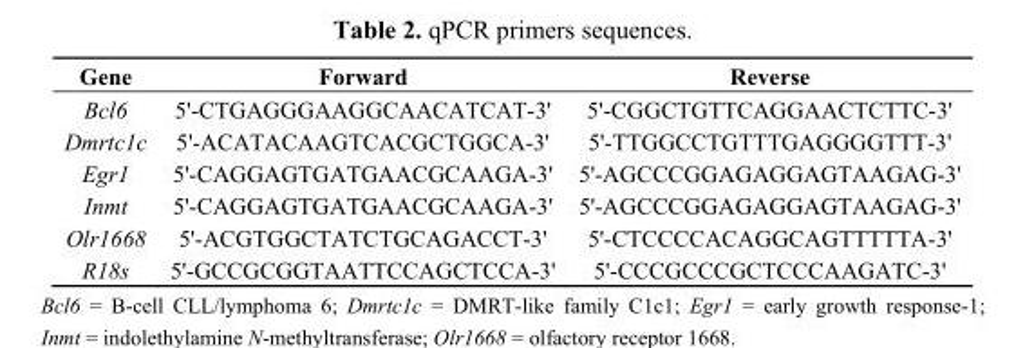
<table><thead><tr><td>Gene</td><td>Forward</td><td>Reverse</td></tr></thead><tbody><tr><td>Bcl6</td><td>5&#x27;-CTGAGGGAAGGCAACATCAT-3&#x27;</td><td>5&#x27;-CGGCTGTTCAGGAACTCTTC-3&#x27;</td></tr><tr><td>Dmrtc1c</td><td>5&#x27;-ACATACAAGTCACGCTGGCA-3&#x27;</td><td>5&#x27;-TTGGCCTGTTTGAGGGGTTT-3&#x27;</td></tr><tr><td>Egr1</td><td>5&#x27;-CAGGAGTGATGAACGCAAGA-3&#x27;</td><td>5&#x27;-AGCCCGGAGAGGAGTAAGAG-3&#x27;</td></tr><tr><td>Inmt</td><td>5&#x27;-CAGGAGTGATGAACGCAAGA-3&#x27;</td><td>5&#x27;-AGCCCGGAGAGGAGTAAGAG-3&#x27;</td></tr><tr><td>Olr1668</td><td>5&#x27;-ACGTGGCTATCTGCAGACCT-3&#x27;</td><td>5&#x27;-CTCCCCACAGGCAGTTTTTA-3&#x27;</td></tr><tr><td>R18s</td><td>5&#x27;-GCCGCGGTAATTCCAGCTCCA-3&#x27;</td><td>5&#x27;-CCCGCCCGCTCCCAAGATC-3&#x27;</td></tr></tbody></table>